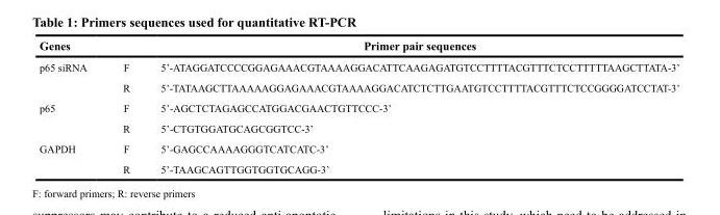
<table><thead><tr><td>Genes</td><td></td><td>Primer pair sequences</td></tr></thead><tbody><tr><td rowspan="2">p65 siRNA</td><td>F</td><td>5’-ATAGGATCCCCGGAGAAACGTAAAAGGACATTCAAGAGATGTCCTTTTACGTTTCTCCTTTTTAAGCTTATA-3’</td></tr><tr><td>R</td><td>5’-TATAAGCTTAAAAAGGAGAAACGTAAAAGGACATCTCTTGAATGTCCTTTTACGTTTCTCCGGGGATCCTAT-3’</td></tr><tr><td rowspan="2">p65</td><td>F</td><td>5’-AGCTCTAGAGCCATGGACGAACTGTTCCC-3’</td></tr><tr><td>R</td><td>5’-CTGTGGATGCAGCGGTCC-3’</td></tr><tr><td rowspan="2">GAPDH</td><td>F</td><td>5’-GAGCCAAAAGGGTCATCATC-3’</td></tr><tr><td>R</td><td>5’-TAAGCAGTTGGTGGTGCAGG-3’</td></tr></tbody></table>